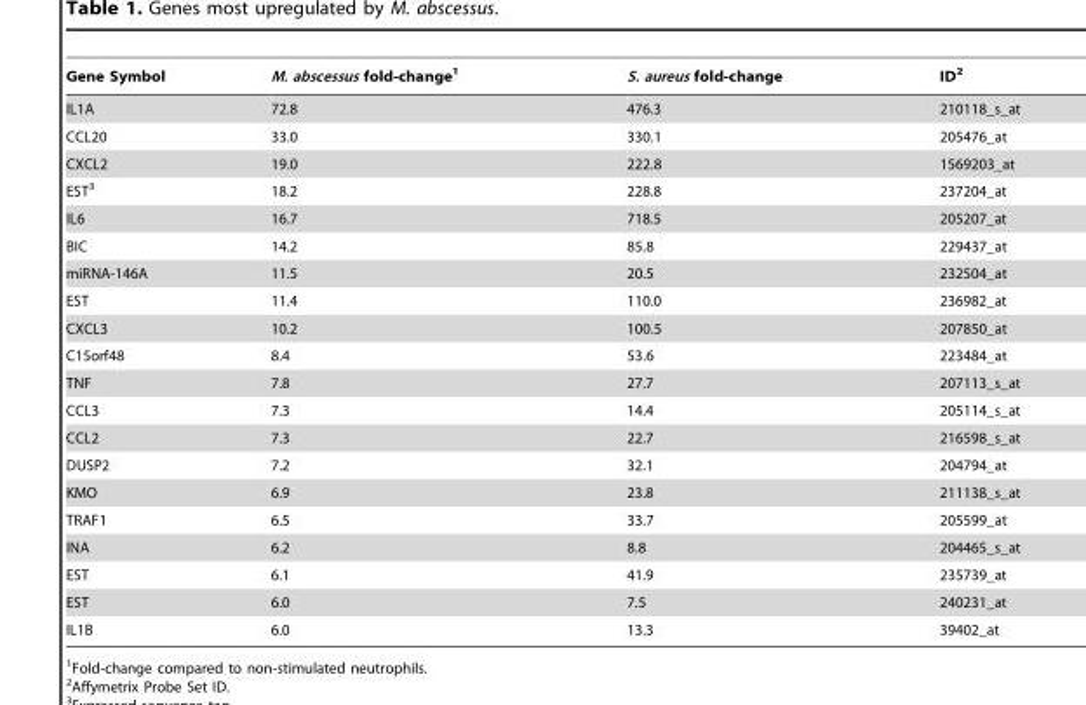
<table><thead><tr><td>Gene Symbol</td><td>M. abscessus fold-change<sup>1</sup></td><td>S. aureus fold-change</td><td>ID<sup>2</sup></td></tr></thead><tbody><tr><td>IL1A</td><td>72.8</td><td>476.3</td><td>210118_s_at</td></tr><tr><td>CCL20</td><td>33.0</td><td>330.1</td><td>205476_at</td></tr><tr><td>CXCL2</td><td>19.0</td><td>222.8</td><td>1569203_at</td></tr><tr><td>EST<sup>3</sup></td><td>18.2</td><td>228.8</td><td>237204_at</td></tr><tr><td>IL6</td><td>16.7</td><td>718.5</td><td>205207_at</td></tr><tr><td>BIC</td><td>14.2</td><td>85.8</td><td>229437_at</td></tr><tr><td>miRNA-146A</td><td>11.5</td><td>20.5</td><td>232504_at</td></tr><tr><td>EST</td><td>11.4</td><td>110.0</td><td>236982_at</td></tr><tr><td>CXCL3</td><td>10.2</td><td>100.5</td><td>207850_at</td></tr><tr><td>C15orf48</td><td>8.4</td><td>53.6</td><td>223484_at</td></tr><tr><td>TNF</td><td>7.8</td><td>27.7</td><td>207113_s_at</td></tr><tr><td>CCL3</td><td>7.3</td><td>14.4</td><td>205114_s_at</td></tr><tr><td>CCL2</td><td>7.3</td><td>22.7</td><td>216598_s_at</td></tr><tr><td>DUSP2</td><td>7.2</td><td>32.1</td><td>204794_at</td></tr><tr><td>KMO</td><td>6.9</td><td>23.8</td><td>211138_s_at</td></tr><tr><td>TRAF1</td><td>6.5</td><td>33.7</td><td>205599_at</td></tr><tr><td>INA</td><td>6.2</td><td>8.8</td><td>204465_s_at</td></tr><tr><td>EST</td><td>6.1</td><td>41.9</td><td>235739_at</td></tr><tr><td>EST</td><td>6.0</td><td>7.5</td><td>240231_at</td></tr><tr><td>IL1B</td><td>6.0</td><td>13.3</td><td>39402_at</td></tr></tbody></table>